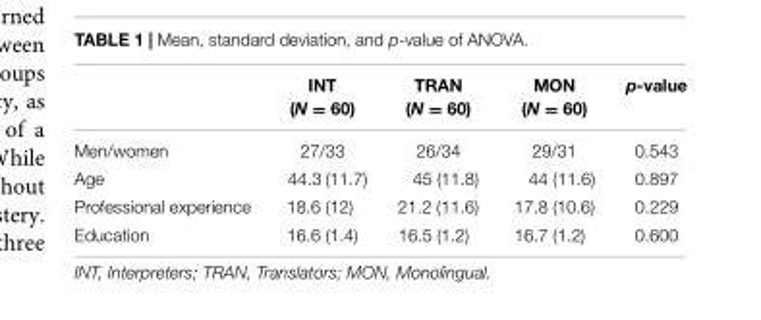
<table><thead><tr><td></td><td>INT (N = 60)</td><td>TRAN (N = 60)</td><td>MON (N = 60)</td><td>p-value</td></tr></thead><tbody><tr><td>Men/women</td><td>27/33</td><td>26/34</td><td>29/31</td><td>0.543</td></tr><tr><td>Age</td><td>44.3 (11.7)</td><td>45 (11.8)</td><td>44 (11.6)</td><td>0.897</td></tr><tr><td>Professional experience</td><td>18.6 (12)</td><td>21.2 (11.6)</td><td>17.8 (10.6)</td><td>0.229</td></tr><tr><td>Education</td><td>16.6 (1.4)</td><td>16.5 (1.2)</td><td>16.7 (1.2)</td><td>0.600</td></tr></tbody></table>